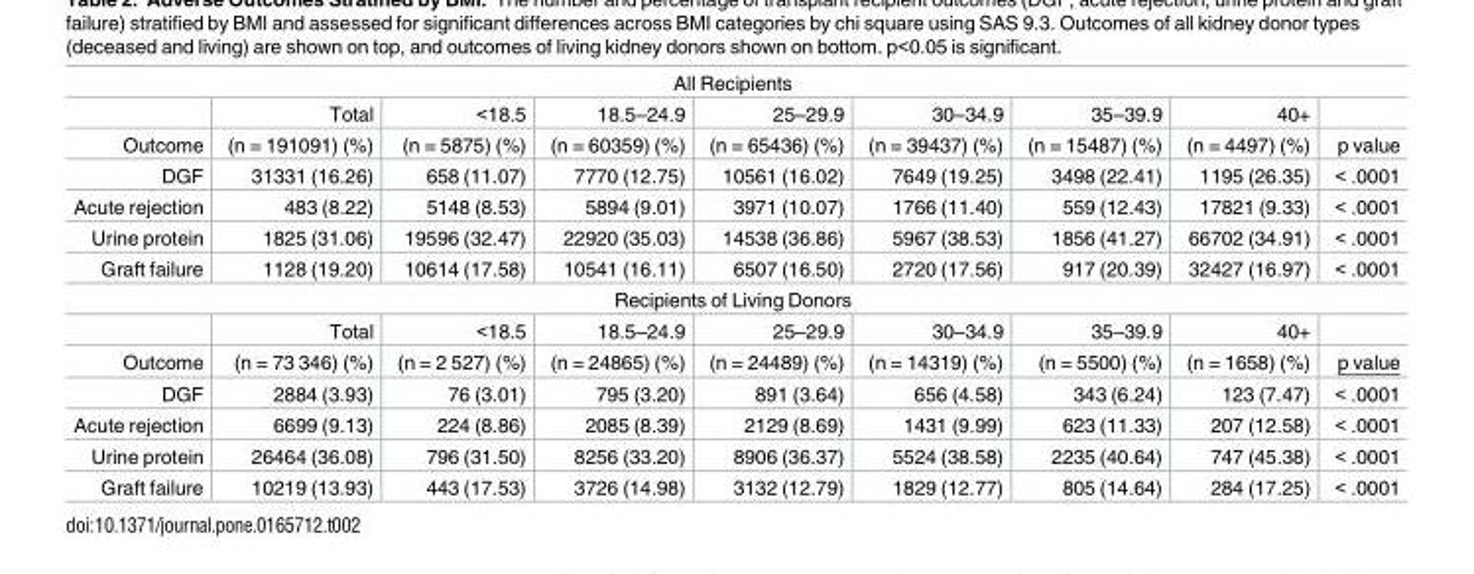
<table><tbody><tr><td colspan="9">All Recipients</td></tr><tr><td></td><td>Total</td><td>&lt;18.5</td><td>18.5–24.9</td><td>25–29.9</td><td>30–34.9</td><td>35–39.9</td><td>40+</td><td></td></tr><tr><td>Outcome</td><td>(n = 191091) (%)</td><td>(n = 5875) (%)</td><td>(n = 60359) (%)</td><td>(n = 65436) (%)</td><td>(n = 39437) (%)</td><td>(n = 15487) (%)</td><td>(n = 4497) (%)</td><td>p value</td></tr><tr><td>DGF</td><td>31331 (16.26)</td><td>658 (11.07)</td><td>7770 (12.75)</td><td>10561 (16.02)</td><td>7649 (19.25)</td><td>3498 (22.41)</td><td>1195 (26.35)</td><td>&lt; .0001</td></tr><tr><td>Acute rejection</td><td>483 (8.22)</td><td>5148 (8.53)</td><td>5894 (9.01)</td><td>3971 (10.07)</td><td>1766 (11.40)</td><td>559 (12.43)</td><td>17821 (9.33)</td><td>&lt; .0001</td></tr><tr><td>Urine protein</td><td>1825 (31.06)</td><td>19596 (32.47)</td><td>22920 (35.03)</td><td>14538 (36.86)</td><td>5967 (38.53)</td><td>1856 (41.27)</td><td>66702 (34.91)</td><td>&lt; .0001</td></tr><tr><td>Graft failure</td><td>1128 (19.20)</td><td>10614 (17.58)</td><td>10541 (16.11)</td><td>6507 (16.50)</td><td>2720 (17.56)</td><td>917 (20.39)</td><td>32427 (16.97)</td><td>&lt; .0001</td></tr><tr><td colspan="9">Recipients of Living Donors</td></tr><tr><td></td><td>Total</td><td>&lt;18.5</td><td>18.5–24.9</td><td>25–29.9</td><td>30–34.9</td><td>35–39.9</td><td>40+</td><td></td></tr><tr><td>Outcome</td><td>(n = 73 346) (%)</td><td>(n = 2 527) (%)</td><td>(n = 24865) (%)</td><td>(n = 24489) (%)</td><td>(n = 14319) (%)</td><td>(n = 5500) (%)</td><td>(n = 1658) (%)</td><td>p value</td></tr><tr><td>DGF</td><td>2884 (3.93)</td><td>76 (3.01)</td><td>795 (3.20)</td><td>891 (3.64)</td><td>656 (4.58)</td><td>343 (6.24)</td><td>123 (7.47)</td><td>&lt; .0001</td></tr><tr><td>Acute rejection</td><td>6699 (9.13)</td><td>224 (8.86)</td><td>2085 (8.39)</td><td>2129 (8.69)</td><td>1431 (9.99)</td><td>623 (11.33)</td><td>207 (12.58)</td><td>&lt; .0001</td></tr><tr><td>Urine protein</td><td>26464 (36.08)</td><td>796 (31.50)</td><td>8256 (33.20)</td><td>8906 (36.37)</td><td>5524 (38.58)</td><td>2235 (40.64)</td><td>747 (45.38)</td><td>&lt; .0001</td></tr><tr><td>Graft failure</td><td>10219 (13.93)</td><td>443 (17.53)</td><td>3726 (14.98)</td><td>3132 (12.79)</td><td>1829 (12.77)</td><td>805 (14.64)</td><td>284 (17.25)</td><td>&lt; .0001</td></tr></tbody></table>